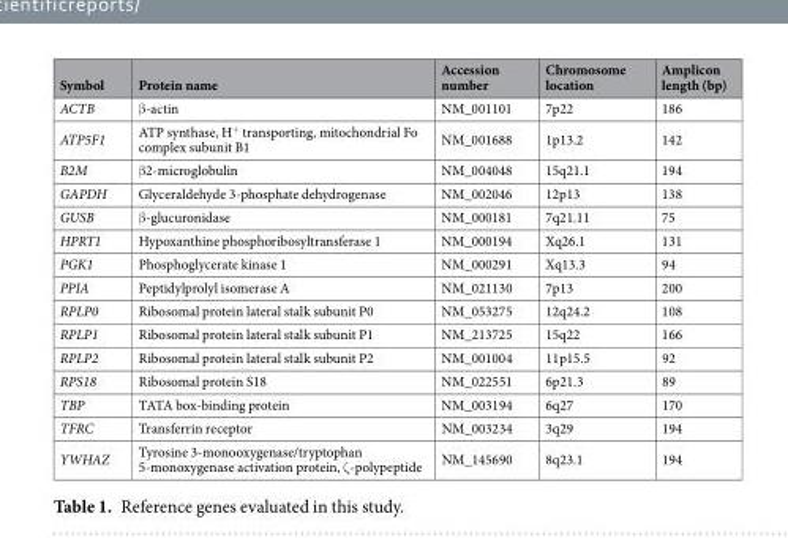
<table><thead><tr><td>Symbol</td><td>Protein name</td><td>Accession number</td><td>Chromosome location</td><td>Amplicon length (bp)</td></tr></thead><tbody><tr><td>ACTB</td><td>β-actin</td><td>NM_001101</td><td>7p22</td><td>186</td></tr><tr><td>ATP5F1</td><td>ATP synthase, H<sup>+</sup> transporting, mitochondrial Fo complex subunit B1</td><td>NM_001688</td><td>1p13.2</td><td>142</td></tr><tr><td>B2M</td><td>β2-microglobulin</td><td>NM_004048</td><td>15q21.1</td><td>194</td></tr><tr><td>GAPDH</td><td>Glyceraldehyde 3-phosphate dehydrogenase</td><td>NM_002046</td><td>12p13</td><td>138</td></tr><tr><td>GUSB</td><td>β-glucuronidase</td><td>NM_000181</td><td>7q21.11</td><td>75</td></tr><tr><td>HPRT1</td><td>Hypoxanthine phosphoribosyltransferase 1</td><td>NM_000194</td><td>Xq26.1</td><td>131</td></tr><tr><td>PGK1</td><td>Phosphoglycerate kinase 1</td><td>NM_000291</td><td>Xq13.3</td><td>94</td></tr><tr><td>PPIA</td><td>Peptidylprolyl isomerase A</td><td>NM_021130</td><td>7p13</td><td>200</td></tr><tr><td>RPLP0</td><td>Ribosomal protein lateral stalk subunit P0</td><td>NM_053275</td><td>12q24.2</td><td>108</td></tr><tr><td>RPLP1</td><td>Ribosomal protein lateral stalk subunit P1</td><td>NM_213725</td><td>15q22</td><td>166</td></tr><tr><td>RPLP2</td><td>Ribosomal protein lateral stalk subunit P2</td><td>NM_001004</td><td>11p15.5</td><td>92</td></tr><tr><td>RPS18</td><td>Ribosomal protein S18</td><td>NM_022551</td><td>6p21.3</td><td>89</td></tr><tr><td>TBP</td><td>TATA box-binding protein</td><td>NM_003194</td><td>6q27</td><td>170</td></tr><tr><td>TFRC</td><td>Transferrin receptor</td><td>NM_003234</td><td>3q29</td><td>194</td></tr><tr><td>YWHAZ</td><td>Tyrosine 3-monooxygenase/tryptophan 5-monoxygenase activation protein, ζ-polypeptide</td><td>NM_145690</td><td>8q23.1</td><td>194</td></tr></tbody></table>